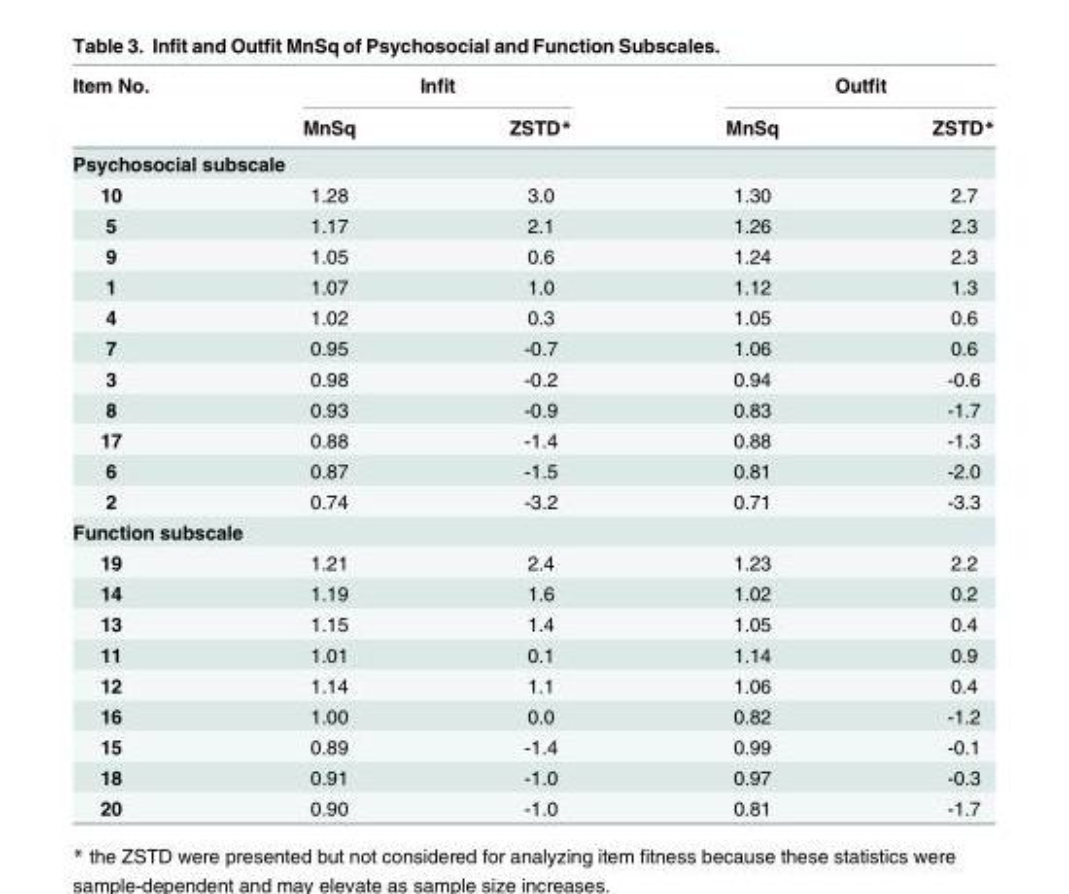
<table><thead><tr><td rowspan="2">Item No.</td><td colspan="2">Infit</td><td colspan="2">Outfit</td></tr><tr><td>MnSq</td><td>ZSTD*</td><td>MnSq</td><td>ZSTD*</td></tr></thead><tbody><tr><td colspan="5">Psychosocial subscale</td></tr><tr><td>10</td><td>1.28</td><td>3.0</td><td>1.30</td><td>2.7</td></tr><tr><td>5</td><td>1.17</td><td>2.1</td><td>1.26</td><td>2.3</td></tr><tr><td>9</td><td>1.05</td><td>0.6</td><td>1.24</td><td>2.3</td></tr><tr><td>1</td><td>1.07</td><td>1.0</td><td>1.12</td><td>1.3</td></tr><tr><td>4</td><td>1.02</td><td>0.3</td><td>1.05</td><td>0.6</td></tr><tr><td>7</td><td>0.95</td><td>-0.7</td><td>1.06</td><td>0.6</td></tr><tr><td>3</td><td>0.98</td><td>-0.2</td><td>0.94</td><td>-0.6</td></tr><tr><td>8</td><td>0.93</td><td>-0.9</td><td>0.83</td><td>-1.7</td></tr><tr><td>17</td><td>0.88</td><td>-1.4</td><td>0.88</td><td>-1.3</td></tr><tr><td>6</td><td>0.87</td><td>-1.5</td><td>0.81</td><td>-2.0</td></tr><tr><td>2</td><td>0.74</td><td>-3.2</td><td>0.71</td><td>-3.3</td></tr><tr><td colspan="5">Function subscale</td></tr><tr><td>19</td><td>1.21</td><td>2.4</td><td>1.23</td><td>2.2</td></tr><tr><td>14</td><td>1.19</td><td>1.6</td><td>1.02</td><td>0.2</td></tr><tr><td>13</td><td>1.15</td><td>1.4</td><td>1.05</td><td>0.4</td></tr><tr><td>11</td><td>1.01</td><td>0.1</td><td>1.14</td><td>0.9</td></tr><tr><td>12</td><td>1.14</td><td>1.1</td><td>1.06</td><td>0.4</td></tr><tr><td>16</td><td>1.00</td><td>0.0</td><td>0.82</td><td>-1.2</td></tr><tr><td>15</td><td>0.89</td><td>-1.4</td><td>0.99</td><td>-0.1</td></tr><tr><td>18</td><td>0.91</td><td>-1.0</td><td>0.97</td><td>-0.3</td></tr><tr><td>20</td><td>0.90</td><td>-1.0</td><td>0.81</td><td>-1.7</td></tr></tbody></table>